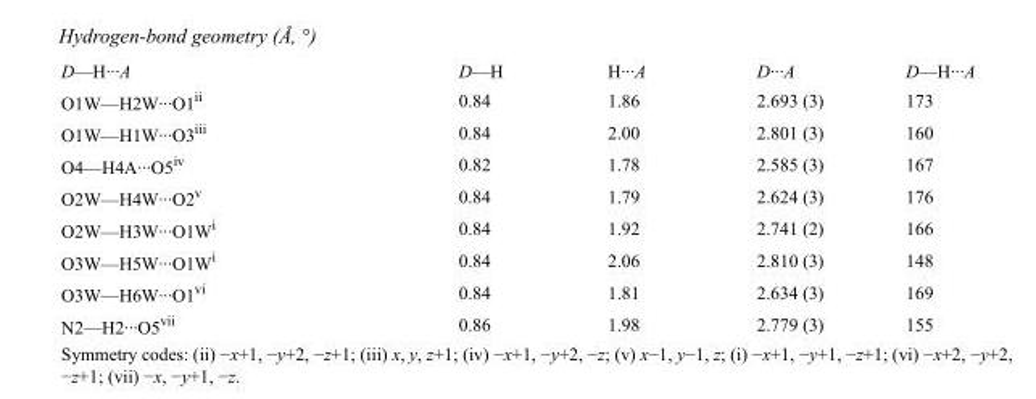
<table><tbody><tr><td>D—H···A</td><td>D—H</td><td>H···A</td><td>D···A</td><td>D—H···A</td></tr><tr><td>O1W—H2W···O1<sup>ii</sup></td><td>0.84</td><td>1.86</td><td>2.693 (3)</td><td>173</td></tr><tr><td>O1W—H1W···O3<sup>iii</sup></td><td>0.84</td><td>2.00</td><td>2.801 (3)</td><td>160</td></tr><tr><td>O4—H4A···O5<sup>iv</sup></td><td>0.82</td><td>1.78</td><td>2.585 (3)</td><td>167</td></tr><tr><td>O2W—H4W···O2<sup>v</sup></td><td>0.84</td><td>1.79</td><td>2.624 (3)</td><td>176</td></tr><tr><td>O2W—H3W···O1W<sup>i</sup></td><td>0.84</td><td>1.92</td><td>2.741 (2)</td><td>166</td></tr><tr><td>O3W—H5W···O1W<sup>i</sup></td><td>0.84</td><td>2.06</td><td>2.810 (3)</td><td>148</td></tr><tr><td>O3W—H6W···O1<sup>vi</sup></td><td>0.84</td><td>1.81</td><td>2.634 (3)</td><td>169</td></tr><tr><td>N2—H2···O5<sup>vii</sup></td><td>0.86</td><td>1.98</td><td>2.779 (3)</td><td>155</td></tr></tbody></table>